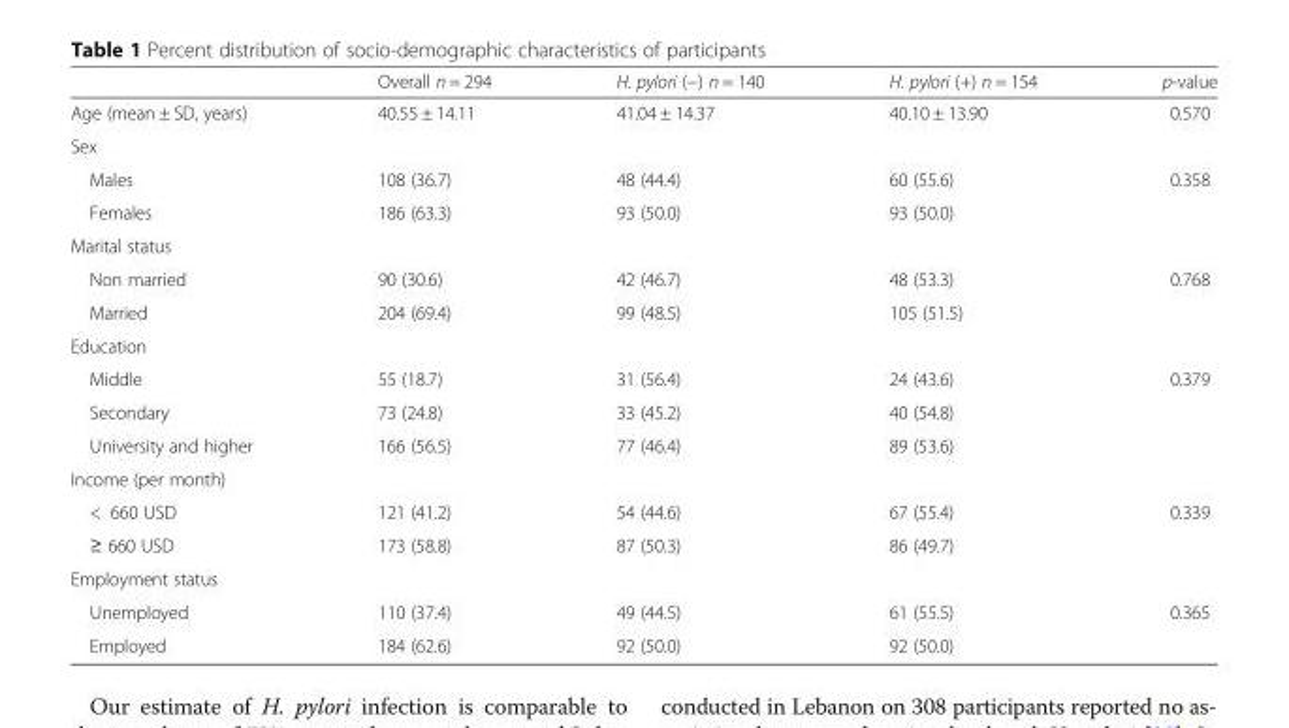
<table><thead><tr><td></td><td>Overall n = 294</td><td>H. pylori (−) n = 140</td><td>H. pylori (+) n = 154</td><td>p-value</td></tr></thead><tbody><tr><td>Age (mean ± SD, years)</td><td>40.55 ± 14.11</td><td>41.04 ± 14.37</td><td>40.10 ± 13.90</td><td>0.570</td></tr><tr><td colspan="5">Sex</td></tr><tr><td>Males</td><td>108 (36.7)</td><td>48 (44.4)</td><td>60 (55.6)</td><td>0.358</td></tr><tr><td>Females</td><td>186 (63.3)</td><td>93 (50.0)</td><td>93 (50.0)</td><td></td></tr><tr><td colspan="5">Marital status</td></tr><tr><td>Non married</td><td>90 (30.6)</td><td>42 (46.7)</td><td>48 (53.3)</td><td>0.768</td></tr><tr><td>Married</td><td>204 (69.4)</td><td>99 (48.5)</td><td>105 (51.5)</td><td></td></tr><tr><td colspan="5">Education</td></tr><tr><td>Middle</td><td>55 (18.7)</td><td>31 (56.4)</td><td>24 (43.6)</td><td>0.379</td></tr><tr><td>Secondary</td><td>73 (24.8)</td><td>33 (45.2)</td><td>40 (54.8)</td><td></td></tr><tr><td>University and higher</td><td>166 (56.5)</td><td>77 (46.4)</td><td>89 (53.6)</td><td></td></tr><tr><td colspan="5">Income (per month)</td></tr><tr><td>&lt; 660 USD</td><td>121 (41.2)</td><td>54 (44.6)</td><td>67 (55.4)</td><td>0.339</td></tr><tr><td>≥ 660 USD</td><td>173 (58.8)</td><td>87 (50.3)</td><td>86 (49.7)</td><td></td></tr><tr><td colspan="5">Employment status</td></tr><tr><td>Unemployed</td><td>110 (37.4)</td><td>49 (44.5)</td><td>61 (55.5)</td><td>0.365</td></tr><tr><td>Employed</td><td>184 (62.6)</td><td>92 (50.0)</td><td>92 (50.0)</td><td></td></tr></tbody></table>